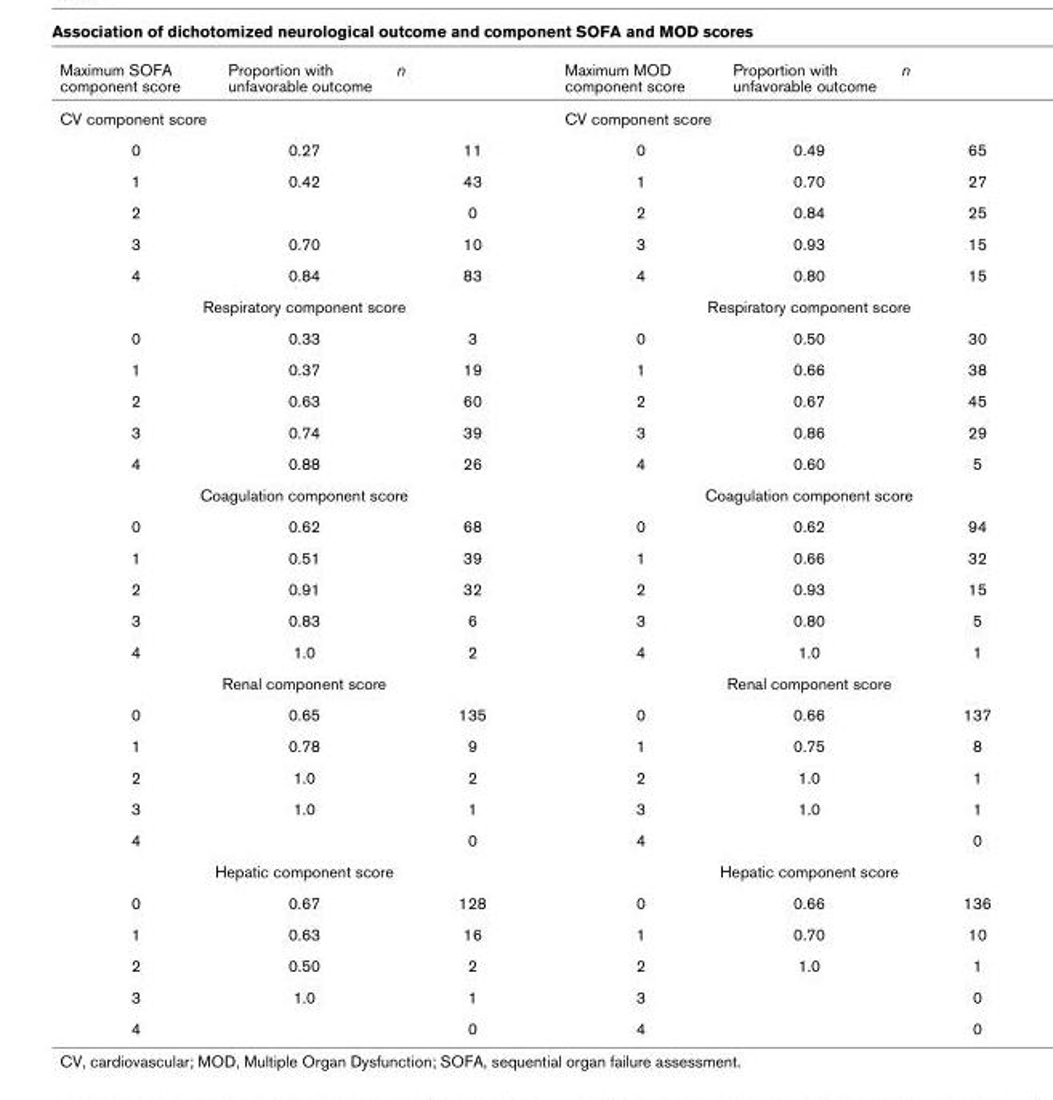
<table><thead><tr><td>Maximum SOFA component score</td><td>Proportion with unfavorable outcome</td><td>n</td><td>Maximum MOD component score</td><td>Proportion with unfavorable outcome</td><td>n</td></tr></thead><tbody><tr><td colspan="3">CV component score</td><td colspan="3">CV component score</td></tr><tr><td>0</td><td>0.27</td><td>11</td><td>0</td><td>0.49</td><td>65</td></tr><tr><td>1</td><td>0.42</td><td>43</td><td>1</td><td>0.70</td><td>27</td></tr><tr><td>2</td><td></td><td>0</td><td>2</td><td>0.84</td><td>25</td></tr><tr><td>3</td><td>0.70</td><td>10</td><td>3</td><td>0.93</td><td>15</td></tr><tr><td>4</td><td>0.84</td><td>83</td><td>4</td><td>0.80</td><td>15</td></tr><tr><td colspan="3">Respiratory component score</td><td colspan="3">Respiratory component score</td></tr><tr><td>0</td><td>0.33</td><td>3</td><td>0</td><td>0.50</td><td>30</td></tr><tr><td>1</td><td>0.37</td><td>19</td><td>1</td><td>0.66</td><td>38</td></tr><tr><td>2</td><td>0.63</td><td>60</td><td>2</td><td>0.67</td><td>45</td></tr><tr><td>3</td><td>0.74</td><td>39</td><td>3</td><td>0.86</td><td>29</td></tr><tr><td>4</td><td>0.88</td><td>26</td><td>4</td><td>0.60</td><td>5</td></tr><tr><td colspan="3">Coagulation component score</td><td colspan="3">Coagulation component score</td></tr><tr><td>0</td><td>0.62</td><td>68</td><td>0</td><td>0.62</td><td>94</td></tr><tr><td>1</td><td>0.51</td><td>39</td><td>1</td><td>0.66</td><td>32</td></tr><tr><td>2</td><td>0.91</td><td>32</td><td>2</td><td>0.93</td><td>15</td></tr><tr><td>3</td><td>0.83</td><td>6</td><td>3</td><td>0.80</td><td>5</td></tr><tr><td>4</td><td>1.0</td><td>2</td><td>4</td><td>1.0</td><td>1</td></tr><tr><td colspan="3">Renal component score</td><td colspan="3">Renal component score</td></tr><tr><td>0</td><td>0.65</td><td>135</td><td>0</td><td>0.66</td><td>137</td></tr><tr><td>1</td><td>0.78</td><td>9</td><td>1</td><td>0.75</td><td>8</td></tr><tr><td>2</td><td>1.0</td><td>2</td><td>2</td><td>1.0</td><td>1</td></tr><tr><td>3</td><td>1.0</td><td>1</td><td>3</td><td>1.0</td><td>1</td></tr><tr><td>4</td><td></td><td>0</td><td>4</td><td></td><td>0</td></tr><tr><td colspan="3">Hepatic component score</td><td colspan="3">Hepatic component score</td></tr><tr><td>0</td><td>0.67</td><td>128</td><td>0</td><td>0.66</td><td>136</td></tr><tr><td>1</td><td>0.63</td><td>16</td><td>1</td><td>0.70</td><td>10</td></tr><tr><td>2</td><td>0.50</td><td>2</td><td>2</td><td>1.0</td><td>1</td></tr><tr><td>3</td><td>1.0</td><td>1</td><td>3</td><td></td><td>0</td></tr><tr><td>4</td><td></td><td>0</td><td>4</td><td></td><td>0</td></tr></tbody></table>